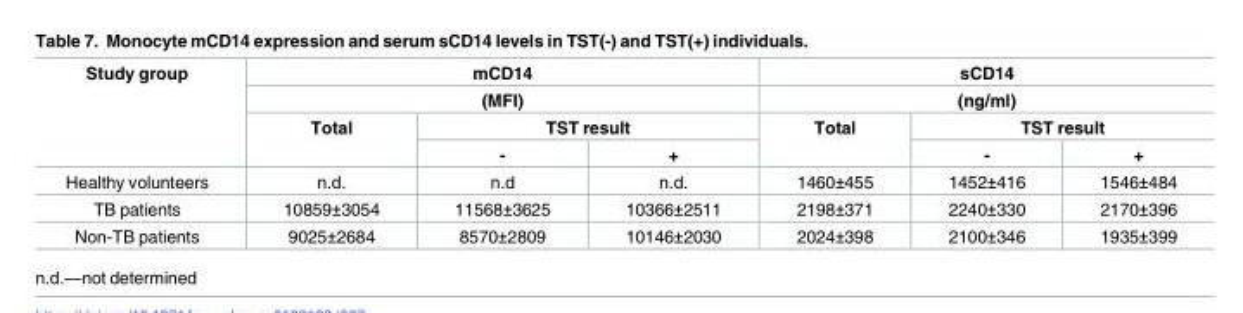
<table><thead><tr><td rowspan="4">Study group</td><td rowspan="2" colspan="3">mCD14 (MFI)</td><td rowspan="2" colspan="3">sCD14 (ng/ml)</td></tr><tr></tr><tr><td rowspan="2">Total</td><td colspan="2">TST result</td><td rowspan="2">Total</td><td colspan="2">TST result</td></tr><tr><td>-</td><td>+</td><td>-</td><td>+</td></tr></thead><tbody><tr><td>Healthy volunteers</td><td>n.d.</td><td>n.d</td><td>n.d.</td><td>1460±455</td><td>1452±416</td><td>1546±484</td></tr><tr><td>TB patients</td><td>10859±3054</td><td>11568±3625</td><td>10366±2511</td><td>2198±371</td><td>2240±330</td><td>2170±396</td></tr><tr><td>Non-TB patients</td><td>9025±2684</td><td>8570±2809</td><td>10146±2030</td><td>2024±398</td><td>2100±346</td><td>1935±399</td></tr></tbody></table>